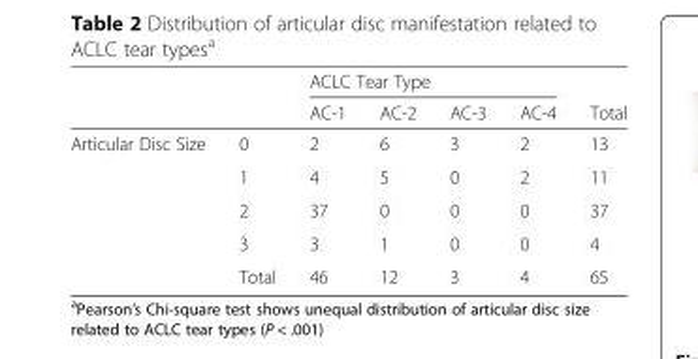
<table><thead><tr><td rowspan="2"></td><td rowspan="2"></td><td colspan="4">ACLC Tear Type</td><td rowspan="2">Total</td></tr><tr><td>AC-1</td><td>AC-2</td><td>AC-3</td><td>AC-4</td></tr></thead><tbody><tr><td rowspan="5">Articular Disc Size</td><td>0</td><td>2</td><td>6</td><td>3</td><td>2</td><td>13</td></tr><tr><td>1</td><td>4</td><td>5</td><td>0</td><td>2</td><td>11</td></tr><tr><td>2</td><td>37</td><td>0</td><td>0</td><td>0</td><td>37</td></tr><tr><td>3</td><td>3</td><td>1</td><td>0</td><td>0</td><td>4</td></tr><tr><td>Total</td><td>46</td><td>12</td><td>3</td><td>4</td><td>65</td></tr></tbody></table>